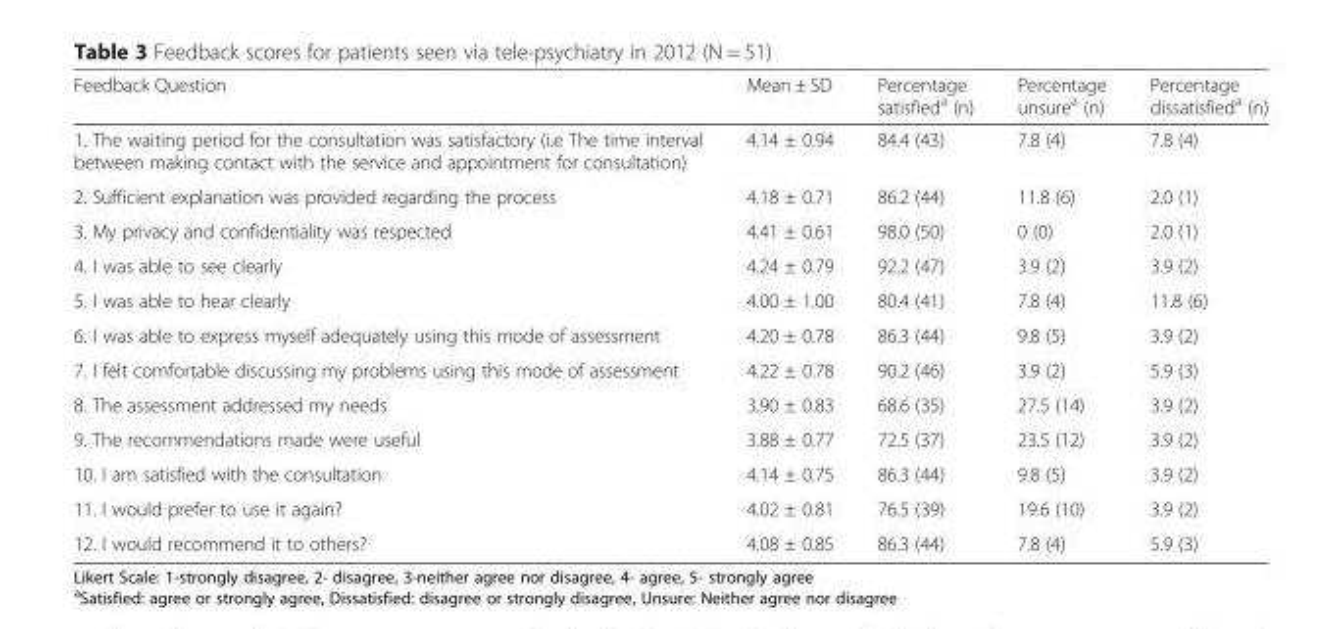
<table><thead><tr><td>Feedback Question</td><td>Mean ± SD</td><td>Percentage satisfied<sup>a</sup> (n)</td><td>Percentage unsure<sup>a</sup> (n)</td><td>Percentage dissatisfied<sup>a</sup> (n)</td></tr></thead><tbody><tr><td>1. The waiting period for the consultation was satisfactory (i.e The time interval between making contact with the service and appointment for consultation)</td><td>4.14 ± 0.94</td><td>84.4 (43)</td><td>7.8 (4)</td><td>7.8 (4)</td></tr><tr><td>2. Sufficient explanation was provided regarding the process</td><td>4.18 ± 0.71</td><td>86.2 (44)</td><td>11.8 (6)</td><td>2.0 (1)</td></tr><tr><td>3. My privacy and confidentiality was respected</td><td>4.41 ± 0.61</td><td>98.0 (50)</td><td>0 (0)</td><td>2.0 (1)</td></tr><tr><td>4. I was able to see clearly</td><td>4.24 ± 0.79</td><td>92.2 (47)</td><td>3.9 (2)</td><td>3.9 (2)</td></tr><tr><td>5. I was able to hear clearly</td><td>4.00 ± 1.00</td><td>80.4 (41)</td><td>7.8 (4)</td><td>11.8 (6)</td></tr><tr><td>6. I was able to express myself adequately using this mode of assessment</td><td>4.20 ± 0.78</td><td>86.3 (44)</td><td>9.8 (5)</td><td>3.9 (2)</td></tr><tr><td>7. I felt comfortable discussing my problems using this mode of assessment</td><td>4.22 ± 0.78</td><td>90.2 (46)</td><td>3.9 (2)</td><td>5.9 (3)</td></tr><tr><td>8. The assessment addressed my needs</td><td>3.90 ± 0.83</td><td>68.6 (35)</td><td>27.5 (14)</td><td>3.9 (2)</td></tr><tr><td>9. The recommendations made were useful</td><td>3.88 ± 0.77</td><td>72.5 (37)</td><td>23.5 (12)</td><td>3.9 (2)</td></tr><tr><td>10. I am satisfied with the consultation</td><td>4.14 ± 0.75</td><td>86.3 (44)</td><td>9.8 (5)</td><td>3.9 (2)</td></tr><tr><td>11. I would prefer to use it again?</td><td>4.02 ± 0.81</td><td>76.5 (39)</td><td>19.6 (10)</td><td>3.9 (2)</td></tr><tr><td>12. I would recommend it to others?</td><td>4.08 ± 0.85</td><td>86.3 (44)</td><td>7.8 (4)</td><td>5.9 (3)</td></tr></tbody></table>